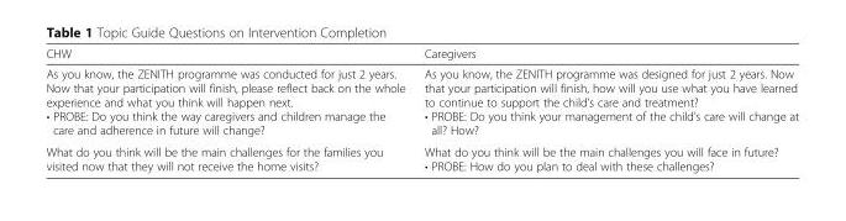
<table><thead><tr><td>CHW</td><td>Caregivers</td></tr></thead><tbody><tr><td>As you know, the ZENITH programme was conducted for just 2 years. Now that your participation will finish, please reflect back on the whole experience and what you think will happen next. • PROBE: Do you think the way caregivers and children manage the care and adherence in future will change?</td><td>As you know, the ZENITH programme was designed for just 2 years. Now that your participation will finish, how will you use what you have learned to continue to support the child’s care and treatment? • PROBE: Do you think your management of the child’s care will change at all? How?</td></tr><tr><td>What do you think will be the main challenges for the families you visited now that they will not receive the home visits?</td><td>What do you think will be the main challenges you will face in future? • PROBE: How do you plan to deal with these challenges?</td></tr></tbody></table>